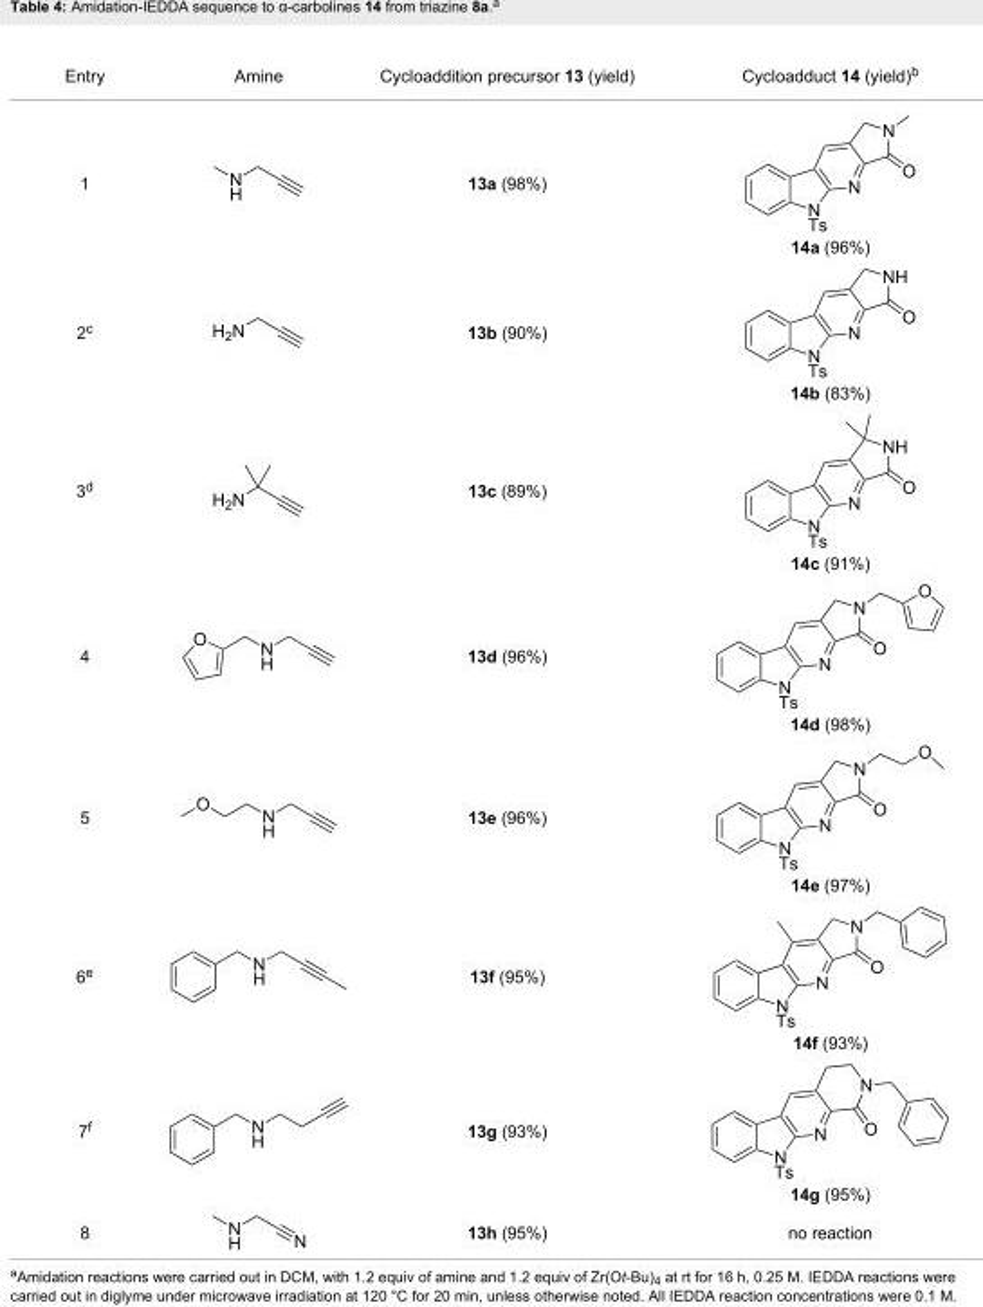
<table><tbody><tr><td>Entry</td><td>Amine</td><td>Cycloaddition precursor 13 (yield)</td><td>Cycloadduct 14 (yield)<sup>b</sup></td></tr><tr><td>1</td><td></td><td>13a (98%)</td><td>14a (96%)</td></tr><tr><td>2<sup>c</sup></td><td></td><td>13b (90%)</td><td>14b (83%)</td></tr><tr><td>3<sup>d</sup></td><td></td><td>13c (89%)</td><td>14c (91%)</td></tr><tr><td>4</td><td></td><td>13d (96%)</td><td>14d (98%)</td></tr><tr><td>5</td><td></td><td>13e (96%)</td><td>14e (97%)</td></tr><tr><td>6<sup>e</sup></td><td></td><td>13f (95%)</td><td>14f (93%)</td></tr><tr><td>7<sup>f</sup></td><td></td><td>13g (93%)</td><td>14g (95%)</td></tr><tr><td>8</td><td></td><td>13h (95%)</td><td>no reaction</td></tr></tbody></table>